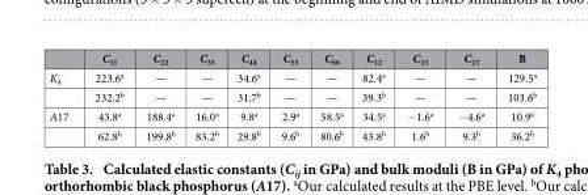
<table><thead><tr><td></td><td>C<sub>11</sub></td><td>C<sub>22</sub></td><td>C<sub>33</sub></td><td>C<sub>44</sub></td><td>C<sub>55</sub></td><td>C<sub>66</sub></td><td>C<sub>12</sub></td><td>C<sub>13</sub></td><td>C<sub>23</sub></td><td>B</td></tr></thead><tbody><tr><td rowspan="2">K<sub>4</sub></td><td>223.6<sup>a</sup></td><td>—</td><td>—</td><td>34.6<sup>a</sup></td><td>—</td><td>—</td><td>82.4<sup>a</sup></td><td>—</td><td>—</td><td>129.5<sup>a</sup></td></tr><tr><td>232.2<sup>b</sup></td><td>—</td><td>—</td><td>31.7<sup>b</sup></td><td>—</td><td>—</td><td>39.3<sup>b</sup></td><td>—</td><td>—</td><td>103.6<sup>b</sup></td></tr><tr><td rowspan="2">A17</td><td>43.8<sup>a</sup></td><td>188.4<sup>a</sup></td><td>16.0<sup>a</sup></td><td>9.8<sup>a</sup></td><td>2.9<sup>a</sup></td><td>58.5<sup>a</sup></td><td>34.5<sup>a</sup></td><td>− 1.6<sup>a</sup></td><td>− 4.6<sup>a</sup></td><td>10.9<sup>a</sup></td></tr><tr><td>62.8<sup>b</sup></td><td>199.8<sup>b</sup></td><td>83.2<sup>b</sup></td><td>29.8<sup>b</sup></td><td>9.6<sup>b</sup></td><td>80.6<sup>b</sup></td><td>43.8<sup>b</sup></td><td>1.6<sup>b</sup></td><td>9.3<sup>b</sup></td><td>36.2<sup>b</sup></td></tr></tbody></table>